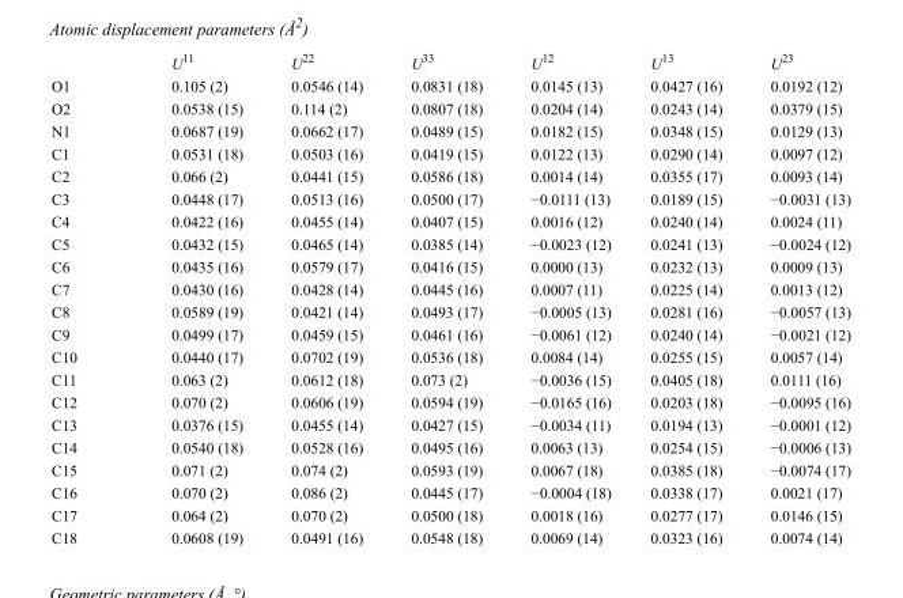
<table><thead><tr><td></td><td>U<sup>11</sup></td><td>U<sup>22</sup></td><td>U<sup>33</sup></td><td>U<sup>12</sup></td><td>U<sup>13</sup></td><td>U<sup>23</sup></td></tr></thead><tbody><tr><td>O1</td><td>0.105 (2)</td><td>0.0546 (14)</td><td>0.0831 (18)</td><td>0.0145 (13)</td><td>0.0427 (16)</td><td>0.0192 (12)</td></tr><tr><td>O2</td><td>0.0538 (15)</td><td>0.114 (2)</td><td>0.0807 (18)</td><td>0.0204 (14)</td><td>0.0243 (14)</td><td>0.0379 (15)</td></tr><tr><td>N1</td><td>0.0687 (19)</td><td>0.0662 (17)</td><td>0.0489 (15)</td><td>0.0182 (15)</td><td>0.0348 (15)</td><td>0.0129 (13)</td></tr><tr><td>C1</td><td>0.0531 (18)</td><td>0.0503 (16)</td><td>0.0419 (15)</td><td>0.0122 (13)</td><td>0.0290 (14)</td><td>0.0097 (12)</td></tr><tr><td>C2</td><td>0.066 (2)</td><td>0.0441 (15)</td><td>0.0586 (18)</td><td>0.0014 (14)</td><td>0.0355 (17)</td><td>0.0093 (14)</td></tr><tr><td>C3</td><td>0.0448 (17)</td><td>0.0513 (16)</td><td>0.0500 (17)</td><td>−0.0111 (13)</td><td>0.0189 (15)</td><td>−0.0031 (13)</td></tr><tr><td>C4</td><td>0.0422 (16)</td><td>0.0455 (14)</td><td>0.0407 (15)</td><td>0.0016 (12)</td><td>0.0240 (14)</td><td>0.0024 (11)</td></tr><tr><td>C5</td><td>0.0432 (15)</td><td>0.0465 (14)</td><td>0.0385 (14)</td><td>−0.0023 (12)</td><td>0.0241 (13)</td><td>−0.0024 (12)</td></tr><tr><td>C6</td><td>0.0435 (16)</td><td>0.0579 (17)</td><td>0.0416 (15)</td><td>0.0000 (13)</td><td>0.0232 (13)</td><td>0.0009 (13)</td></tr><tr><td>C7</td><td>0.0430 (16)</td><td>0.0428 (14)</td><td>0.0445 (16)</td><td>0.0007 (11)</td><td>0.0225 (14)</td><td>0.0013 (12)</td></tr><tr><td>C8</td><td>0.0589 (19)</td><td>0.0421 (14)</td><td>0.0493 (17)</td><td>−0.0005 (13)</td><td>0.0281 (16)</td><td>−0.0057 (13)</td></tr><tr><td>C9</td><td>0.0499 (17)</td><td>0.0459 (15)</td><td>0.0461 (16)</td><td>−0.0061 (12)</td><td>0.0240 (14)</td><td>−0.0021 (12)</td></tr><tr><td>C10</td><td>0.0440 (17)</td><td>0.0702 (19)</td><td>0.0536 (18)</td><td>0.0084 (14)</td><td>0.0255 (15)</td><td>0.0057 (14)</td></tr><tr><td>C11</td><td>0.063 (2)</td><td>0.0612 (18)</td><td>0.073 (2)</td><td>−0.0036 (15)</td><td>0.0405 (18)</td><td>0.0111 (16)</td></tr><tr><td>C12</td><td>0.070 (2)</td><td>0.0606 (19)</td><td>0.0594 (19)</td><td>−0.0165 (16)</td><td>0.0203 (18)</td><td>−0.0095 (16)</td></tr><tr><td>C13</td><td>0.0376 (15)</td><td>0.0455 (14)</td><td>0.0427 (15)</td><td>−0.0034 (11)</td><td>0.0194 (13)</td><td>−0.0001 (12)</td></tr><tr><td>C14</td><td>0.0540 (18)</td><td>0.0528 (16)</td><td>0.0495 (16)</td><td>0.0063 (13)</td><td>0.0254 (15)</td><td>−0.0006 (13)</td></tr><tr><td>C15</td><td>0.071 (2)</td><td>0.074 (2)</td><td>0.0593 (19)</td><td>0.0067 (18)</td><td>0.0385 (18)</td><td>−0.0074 (17)</td></tr><tr><td>C16</td><td>0.070 (2)</td><td>0.086 (2)</td><td>0.0445 (17)</td><td>−0.0004 (18)</td><td>0.0338 (17)</td><td>0.0021 (17)</td></tr><tr><td>C17</td><td>0.064 (2)</td><td>0.070 (2)</td><td>0.0500 (18)</td><td>0.0018 (16)</td><td>0.0277 (17)</td><td>0.0146 (15)</td></tr><tr><td>C18</td><td>0.0608 (19)</td><td>0.0491 (16)</td><td>0.0548 (18)</td><td>0.0069 (14)</td><td>0.0323 (16)</td><td>0.0074 (14)</td></tr></tbody></table>